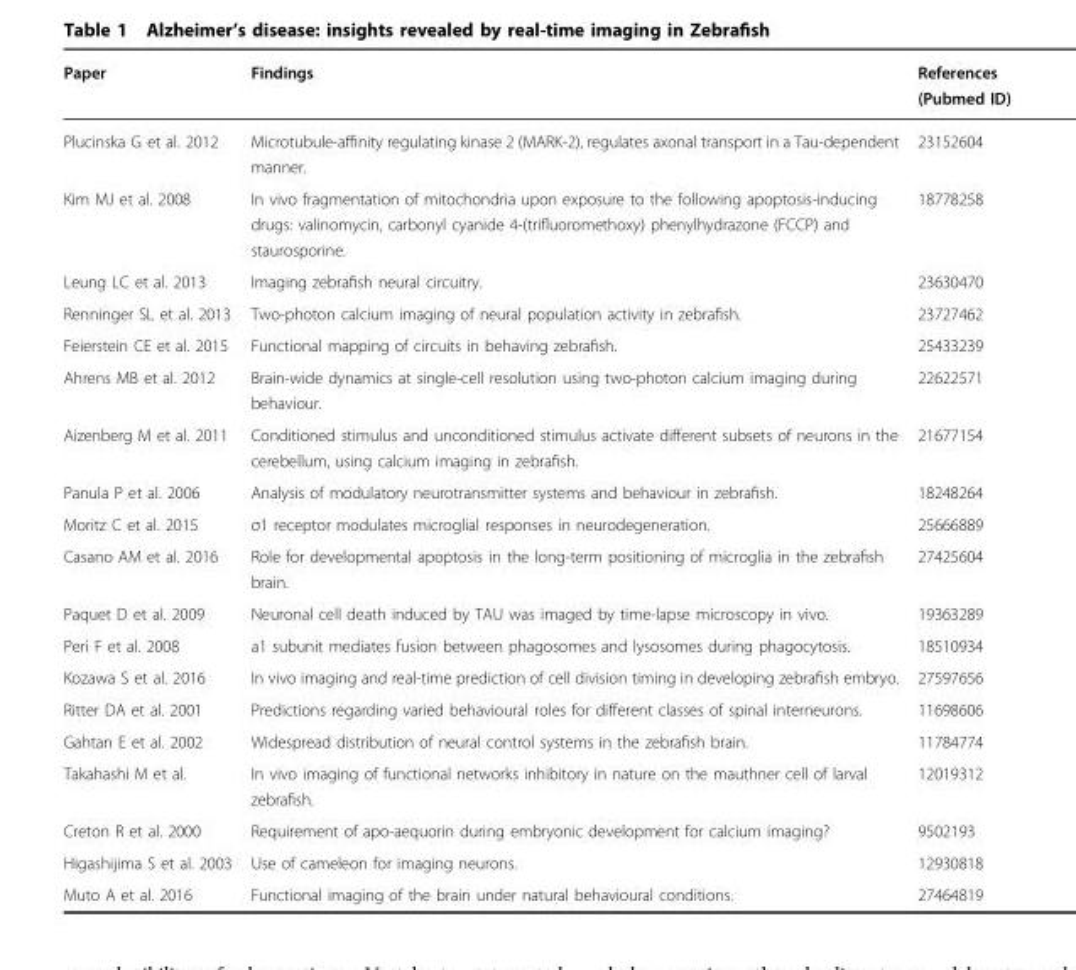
<table><thead><tr><td>Paper</td><td>Findings</td><td>References (Pubmed ID)</td></tr></thead><tbody><tr><td>Plucinska G et al. 2012</td><td>Microtubule-affinity regulating kinase 2 (MARK-2), regulates axonal transport in a Tau-dependent manner.</td><td>23152604</td></tr><tr><td>Kim MJ et al. 2008</td><td>In vivo fragmentation of mitochondria upon exposure to the following apoptosis-inducing drugs: valinomycin, carbonyl cyanide 4-(trifluoromethoxy) phenylhydrazone (FCCP) and staurosporine.</td><td>18778258</td></tr><tr><td>Leung LC et al. 2013</td><td>Imaging zebrafish neural circuitry.</td><td>23630470</td></tr><tr><td>Renninger SL et al. 2013</td><td>Two-photon calcium imaging of neural population activity in zebrafish.</td><td>23727462</td></tr><tr><td>Feierstein CE et al. 2015</td><td>Functional mapping of circuits in behaving zebrafish.</td><td>25433239</td></tr><tr><td>Ahrens MB et al. 2012</td><td>Brain-wide dynamics at single-cell resolution using two-photon calcium imaging during behaviour.</td><td>22622571</td></tr><tr><td>Aizenberg M et al. 2011</td><td>Conditioned stimulus and unconditioned stimulus activate different subsets of neurons in the cerebellum, using calcium imaging in zebrafish.</td><td>21677154</td></tr><tr><td>Panula P et al. 2006</td><td>Analysis of modulatory neurotransmitter systems and behaviour in zebrafish.</td><td>18248264</td></tr><tr><td>Moritz C et al. 2015</td><td>σ1 receptor modulates microglial responses in neurodegeneration.</td><td>25666889</td></tr><tr><td>Casano AM et al. 2016</td><td>Role for developmental apoptosis in the long-term positioning of microglia in the zebrafish brain.</td><td>27425604</td></tr><tr><td>Paquet D et al. 2009</td><td>Neuronal cell death induced by TAU was imaged by time-lapse microscopy in vivo.</td><td>19363289</td></tr><tr><td>Peri F et al. 2008</td><td>a1 subunit mediates fusion between phagosomes and lysosomes during phagocytosis.</td><td>18510934</td></tr><tr><td>Kozawa S et al. 2016</td><td>In vivo imaging and real-time prediction of cell division timing in developing zebrafish embryo.</td><td>27597656</td></tr><tr><td>Ritter DA et al. 2001</td><td>Predictions regarding varied behavioural roles for different classes of spinal interneurons.</td><td>11698606</td></tr><tr><td>Gahtan E et al. 2002</td><td>Widespread distribution of neural control systems in the zebrafish brain.</td><td>11784774</td></tr><tr><td>Takahashi M et al.</td><td>In vivo imaging of functional networks inhibitory in nature on the mauthner cell of larval zebrafish.</td><td>12019312</td></tr><tr><td>Creton R et al. 2000</td><td>Requirement of apo-aequorin during embryonic development for calcium imaging?</td><td>9502193</td></tr><tr><td>Higashijima S et al. 2003</td><td>Use of cameleon for imaging neurons.</td><td>12930818</td></tr><tr><td>Muto A et al. 2016</td><td>Functional imaging of the brain under natural behavioural conditions.</td><td>27464819</td></tr></tbody></table>